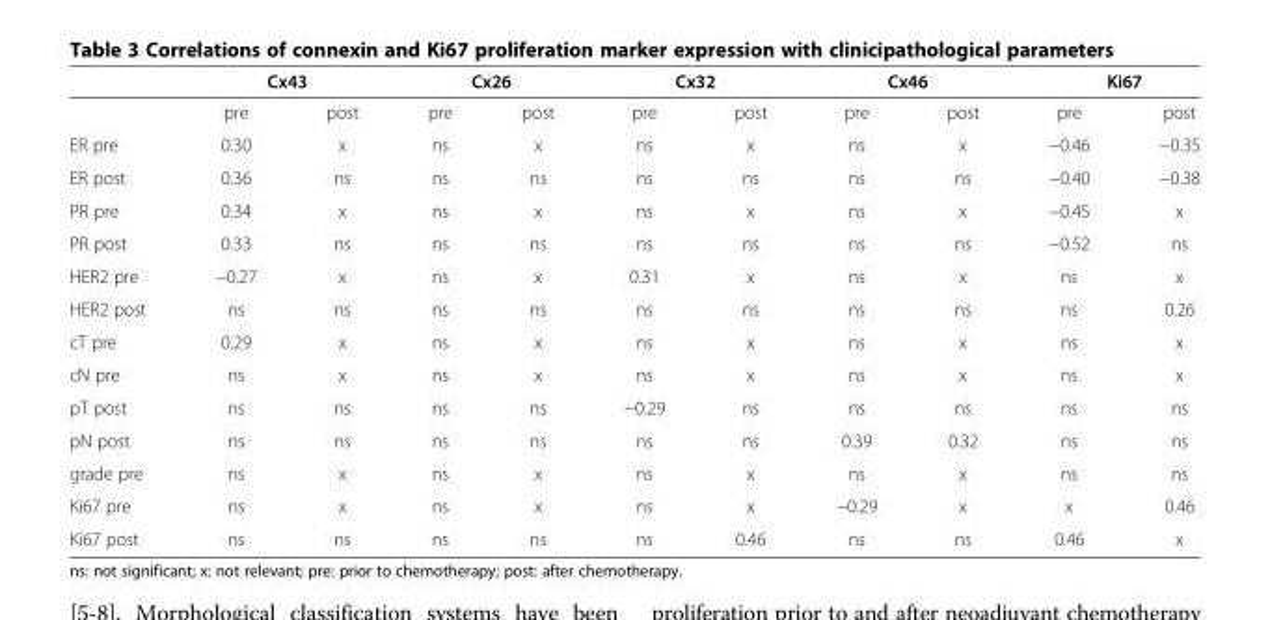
<table><thead><tr><td rowspan="2"></td><td colspan="2">Cx43</td><td colspan="2">Cx26</td><td colspan="2">Cx32</td><td colspan="2">Cx46</td><td colspan="2">Ki67</td></tr><tr><td>pre</td><td>post</td><td>pre</td><td>post</td><td>pre</td><td>post</td><td>pre</td><td>post</td><td>pre</td><td>post</td></tr></thead><tbody><tr><td>ER pre</td><td>0.30</td><td>x</td><td>ns</td><td>x</td><td>ns</td><td>x</td><td>ns</td><td>x</td><td>−0.46</td><td>−0.35</td></tr><tr><td>ER post</td><td>0.36</td><td>ns</td><td>ns</td><td>ns</td><td>ns</td><td>ns</td><td>ns</td><td>ns</td><td>−0.40</td><td>−0.38</td></tr><tr><td>PR pre</td><td>0.34</td><td>x</td><td>ns</td><td>x</td><td>ns</td><td>x</td><td>ns</td><td>x</td><td>−0.45</td><td>x</td></tr><tr><td>PR post</td><td>0.33</td><td>ns</td><td>ns</td><td>ns</td><td>ns</td><td>ns</td><td>ns</td><td>ns</td><td>−0.52</td><td>ns</td></tr><tr><td>HER2 pre</td><td>−0.27</td><td>x</td><td>ns</td><td>x</td><td>0.31</td><td>x</td><td>ns</td><td>x</td><td>ns</td><td>x</td></tr><tr><td>HER2 post</td><td>ns</td><td>ns</td><td>ns</td><td>ns</td><td>ns</td><td>ns</td><td>ns</td><td>ns</td><td>ns</td><td>0.26</td></tr><tr><td>cT pre</td><td>0.29</td><td>x</td><td>ns</td><td>x</td><td>ns</td><td>x</td><td>ns</td><td>x</td><td>ns</td><td>x</td></tr><tr><td>cN pre</td><td>ns</td><td>x</td><td>ns</td><td>x</td><td>ns</td><td>x</td><td>ns</td><td>x</td><td>ns</td><td>x</td></tr><tr><td>pT post</td><td>ns</td><td>ns</td><td>ns</td><td>ns</td><td>−0.29</td><td>ns</td><td>ns</td><td>ns</td><td>ns</td><td>ns</td></tr><tr><td>pN post</td><td>ns</td><td>ns</td><td>ns</td><td>ns</td><td>ns</td><td>ns</td><td>0.39</td><td>0.32</td><td>ns</td><td>ns</td></tr><tr><td>grade pre</td><td>ns</td><td>x</td><td>ns</td><td>x</td><td>ns</td><td>x</td><td>ns</td><td>x</td><td>ns</td><td>ns</td></tr><tr><td>Ki67 pre</td><td>ns</td><td>x</td><td>ns</td><td>x</td><td>ns</td><td>x</td><td>−0.29</td><td>x</td><td>x</td><td>0.46</td></tr><tr><td>Ki67 post</td><td>ns</td><td>ns</td><td>ns</td><td>ns</td><td>ns</td><td>0.46</td><td>ns</td><td>ns</td><td>0.46</td><td>x</td></tr></tbody></table>